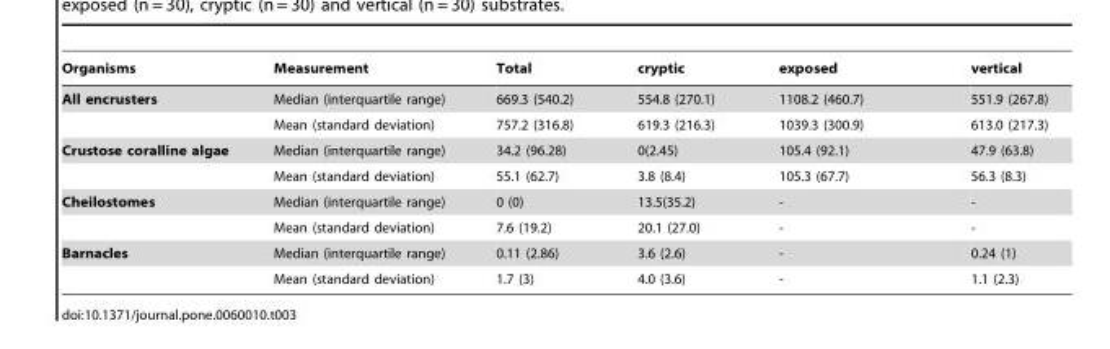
<table><thead><tr><td>Organisms</td><td>Measurement</td><td>Total</td><td>cryptic</td><td>exposed</td><td>vertical</td></tr></thead><tbody><tr><td rowspan="2">All encrusters</td><td>Median (interquartile range)</td><td>669.3 (540.2)</td><td>554.8 (270.1)</td><td>1108.2 (460.7)</td><td>551.9 (267.8)</td></tr><tr><td>Mean (standard deviation)</td><td>757.2 (316.8)</td><td>619.3 (216.3)</td><td>1039.3 (300.9)</td><td>613.0 (217.3)</td></tr><tr><td rowspan="2">Crustose coralline algae</td><td>Median (interquartile range)</td><td>34.2 (96.28)</td><td>0(2.45)</td><td>105.4 (92.1)</td><td>47.9 (63.8)</td></tr><tr><td>Mean (standard deviation)</td><td>55.1 (62.7)</td><td>3.8 (8.4)</td><td>105.3 (67.7)</td><td>56.3 (8.3)</td></tr><tr><td rowspan="2">Cheilostomes</td><td>Median (interquartile range)</td><td>0 (0)</td><td>13.5(35.2)</td><td>-</td><td>-</td></tr><tr><td>Mean (standard deviation)</td><td>7.6 (19.2)</td><td>20.1 (27.0)</td><td>-</td><td>-</td></tr><tr><td rowspan="2">Barnacles</td><td>Median (interquartile range)</td><td>0.11 (2.86)</td><td>3.6 (2.6)</td><td>-</td><td>0.24 (1)</td></tr><tr><td>Mean (standard deviation)</td><td>1.7 (3)</td><td>4.0 (3.6)</td><td>-</td><td>1.1 (2.3)</td></tr></tbody></table>